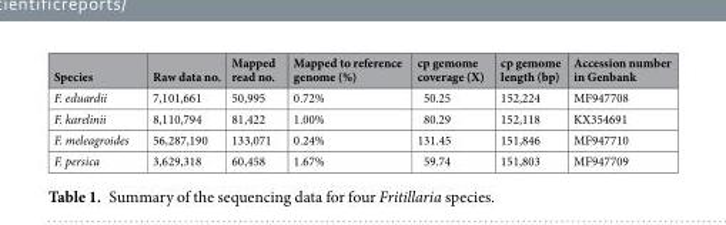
<table><thead><tr><td>Species</td><td>Raw data no.</td><td>Mapped read no.</td><td>Mapped to reference genome (%)</td><td>cp gemome coverage (X)</td><td>cp gemome length (bp)</td><td>Accession number in Genbank</td></tr></thead><tbody><tr><td>F. eduardii</td><td>7,101,661</td><td>50,995</td><td>0.72%</td><td>50.25</td><td>152,224</td><td>MF947708</td></tr><tr><td>F. karelinii</td><td>8,110,794</td><td>81,422</td><td>1.00%</td><td>80.29</td><td>152,118</td><td>KX354691</td></tr><tr><td>F. meleagroides</td><td>56,287,190</td><td>133,071</td><td>0.24%</td><td>131.45</td><td>151,846</td><td>MF947710</td></tr><tr><td>F. persica</td><td>3,629,318</td><td>60,458</td><td>1.67%</td><td>59.74</td><td>151,803</td><td>MF947709</td></tr></tbody></table>